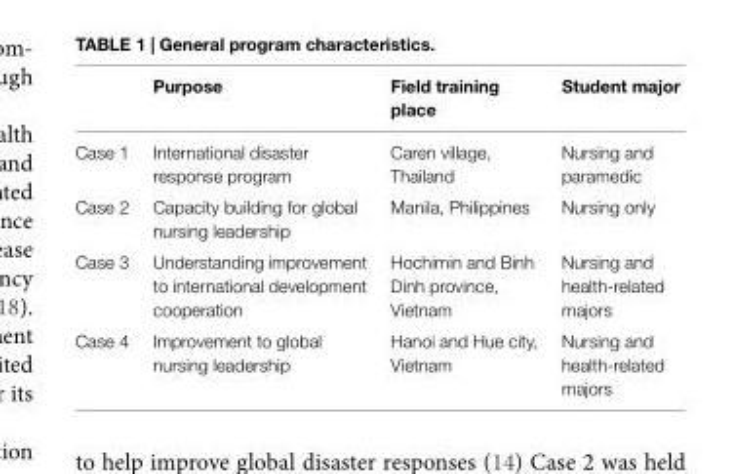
<table><thead><tr><td></td><td>purpose</td><td>Field training place</td><td>student major</td></tr></thead><tbody><tr><td>Case 1</td><td>International disaster response program</td><td>Caren village, Thailand</td><td>Nursing and paramedic</td></tr><tr><td>Case 2</td><td>Capacity building for global nursing leadership</td><td>Manila, Philippines</td><td>Nursing only</td></tr><tr><td>Case 3</td><td>Understanding improvement to international development cooperation</td><td>Hochimin and Binh Dinh province, Vietnam</td><td>Nursing and health-related majors</td></tr><tr><td>Case 4</td><td>Improvement to global nursing leadership</td><td>Hanoi and Hue city, Vietnam</td><td>Nursing and health-related majors</td></tr></tbody></table>